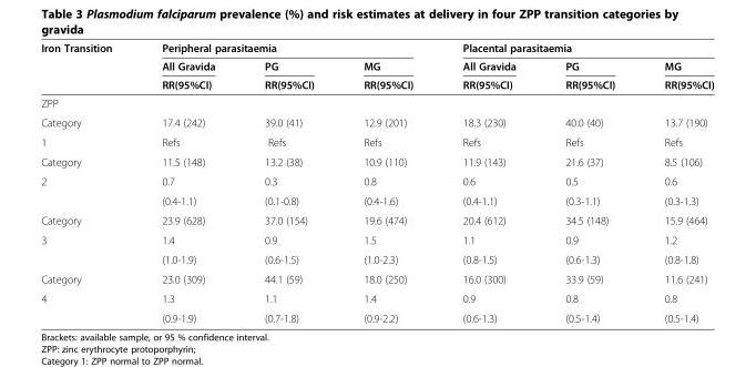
<table><thead><tr><td rowspan="3">Iron Transition</td><td colspan="3">Peripheral parasitaemia</td><td colspan="3">Placental parasitaemia</td></tr><tr><td rowspan="2">All Gravida RR(95%CI)</td><td rowspan="2">PG RR(95%CI)</td><td rowspan="2">MG RR(95%CI)</td><td rowspan="2">All Gravida RR(95%CI)</td><td rowspan="2">PG RR(95%CI)</td><td rowspan="2">MG RR(95%CI)</td></tr><tr></tr></thead><tbody><tr><td colspan="7">ZPP</td></tr><tr><td>Category</td><td>17.4 (242)</td><td>39.0 (41)</td><td>12.9 (201)</td><td>18.3 (230)</td><td>40.0 (40)</td><td>13.7 (190)</td></tr><tr><td>1</td><td>Refs</td><td>Refs</td><td>Refs</td><td>Refs</td><td>Refs</td><td>Refs</td></tr><tr><td>Category</td><td>11.5 (148)</td><td>13.2 (38)</td><td>10.9 (110)</td><td>11.9 (143)</td><td>21.6 (37)</td><td>8.5 (106)</td></tr><tr><td rowspan="2">2</td><td>0.7</td><td>0.3</td><td>0.8</td><td>0.6</td><td>0.5</td><td>0.6</td></tr><tr><td>(0.4-1.1)</td><td>(0.1-0.8)</td><td>(0.4-1.6)</td><td>(0.4-1.1)</td><td>(0.3-1.1)</td><td>(0.3-1.3)</td></tr><tr><td>Category</td><td>23.9 (628)</td><td>37.0 (154)</td><td>19.6 (474)</td><td>20.4 (612)</td><td>34.5 (148)</td><td>15.9 (464)</td></tr><tr><td rowspan="2">3</td><td>1.4</td><td>0.9</td><td>1.5</td><td>1.1</td><td>0.9</td><td>1.2</td></tr><tr><td>(1.0-1.9)</td><td>(0.6-1.5)</td><td>(1.0-2.3)</td><td>(0.8-1.5)</td><td>(0.6-1.3)</td><td>(0.8-1.8)</td></tr><tr><td>Category</td><td>23.0 (309)</td><td>44.1 (59)</td><td>18.0 (250)</td><td>16.0 (300)</td><td>33.9 (59)</td><td>11.6 (241)</td></tr><tr><td rowspan="2">4</td><td>1.3</td><td>1.1</td><td>1.4</td><td>0.9</td><td>0.8</td><td>0.8</td></tr><tr><td>(0.9-1.9)</td><td>(0.7-1.8)</td><td>(0.9-2.2)</td><td>(0.6-1.3)</td><td>(0.5-1.4)</td><td>(0.5-1.4)</td></tr></tbody></table>